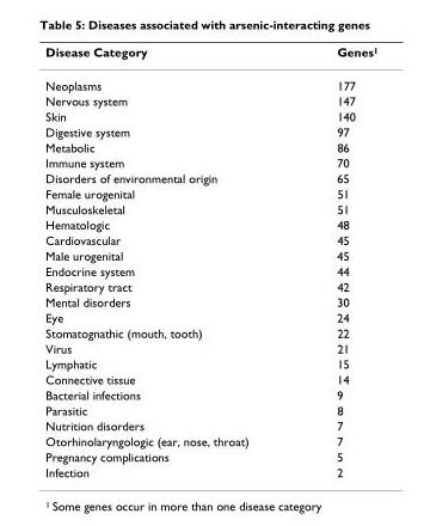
<table><thead><tr><td>Disease Category</td><td>Genes<sup>1</sup></td></tr></thead><tbody><tr><td>Neoplasms</td><td>177</td></tr><tr><td>Nervous system</td><td>147</td></tr><tr><td>Skin</td><td>140</td></tr><tr><td>Digestive system</td><td>97</td></tr><tr><td>Metabolic</td><td>86</td></tr><tr><td>Immune system</td><td>70</td></tr><tr><td>Disorders of environmental origin</td><td>65</td></tr><tr><td>Female urogenital</td><td>51</td></tr><tr><td>Musculoskeletal</td><td>51</td></tr><tr><td>Hematologic</td><td>48</td></tr><tr><td>Cardiovascular</td><td>45</td></tr><tr><td>Male urogenital</td><td>45</td></tr><tr><td>Endocrine system</td><td>44</td></tr><tr><td>Respiratory tract</td><td>42</td></tr><tr><td>Mental disorders</td><td>30</td></tr><tr><td>Eye</td><td>24</td></tr><tr><td>Stomatognathic (mouth, tooth)</td><td>22</td></tr><tr><td>Virus</td><td>21</td></tr><tr><td>Lymphatic</td><td>15</td></tr><tr><td>Connective tissue</td><td>14</td></tr><tr><td>Bacterial infections</td><td>9</td></tr><tr><td>Parasitic</td><td>8</td></tr><tr><td>Nutrition disorders</td><td>7</td></tr><tr><td>Otorhinolaryngologic (ear, nose, throat)</td><td>7</td></tr><tr><td>Pregnancy complications</td><td>5</td></tr><tr><td>Infection</td><td>2</td></tr></tbody></table>